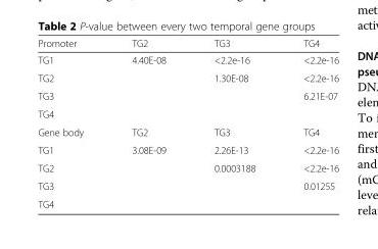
<table><thead><tr><td>Promoter</td><td>TG2</td><td>TG3</td><td>TG4</td></tr></thead><tbody><tr><td>TG1</td><td>4.40E-08</td><td>&lt;2.2e-16</td><td>&lt;2.2e-16</td></tr><tr><td>TG2</td><td></td><td>1.30E-08</td><td>&lt;2.2e-16</td></tr><tr><td>TG3</td><td></td><td></td><td>6.21E-07</td></tr><tr><td colspan="4">TG4</td></tr><tr><td>Gene body</td><td>TG2</td><td>TG3</td><td>TG4</td></tr><tr><td>TG1</td><td>3.08E-09</td><td>2.26E-13</td><td>&lt;2.2e-16</td></tr><tr><td>TG2</td><td></td><td>0.0003188</td><td>&lt;2.2e-16</td></tr><tr><td>TG3</td><td></td><td></td><td>0.01255</td></tr><tr><td>TG4</td><td></td><td></td><td></td></tr></tbody></table>